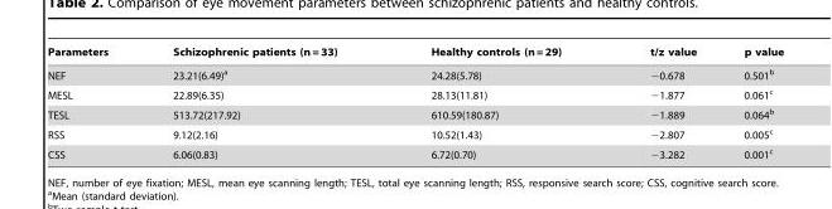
<table><thead><tr><td>Parameters</td><td>Schizophrenic patients (n = 33)</td><td>Healthy controls (n = 29)</td><td>t/z value</td><td>p value</td></tr></thead><tbody><tr><td>NEF</td><td>23.21(6.49)<sup>a</sup></td><td>24.28(5.78)</td><td>−0.678</td><td>0.501<sup>b</sup></td></tr><tr><td>MESL</td><td>22.89(6.35)</td><td>28.13(11.81)</td><td>−1.877</td><td>0.061<sup>c</sup></td></tr><tr><td>TESL</td><td>513.72(217.92)</td><td>610.59(180.87)</td><td>−1.889</td><td>0.064<sup>b</sup></td></tr><tr><td>RSS</td><td>9.12(2.16)</td><td>10.52(1.43)</td><td>−2.807</td><td>0.005<sup>c</sup></td></tr><tr><td>CSS</td><td>6.06(0.83)</td><td>6.72(0.70)</td><td>−3.282</td><td>0.001<sup>c</sup></td></tr></tbody></table>